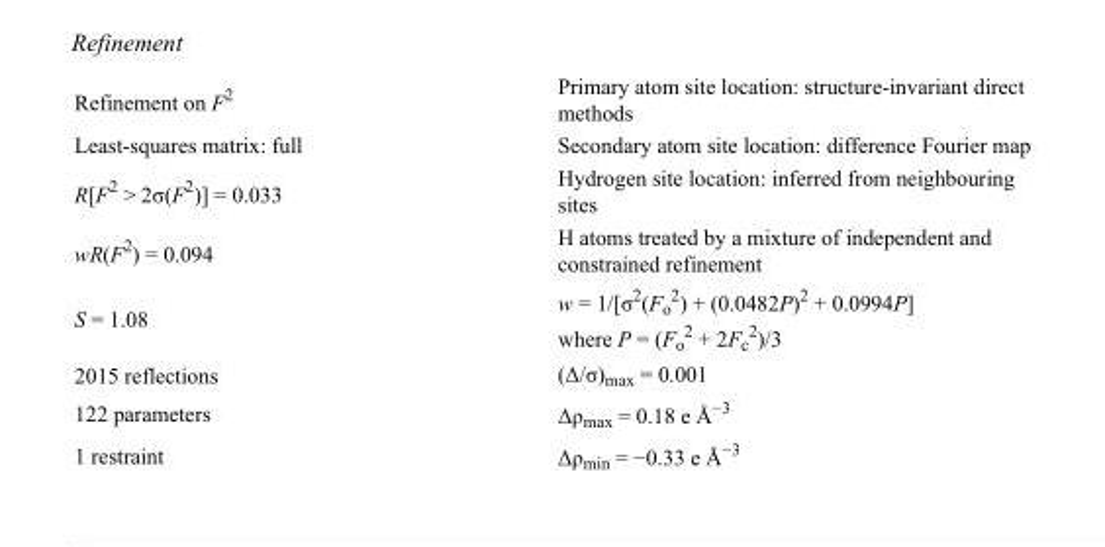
<table><tbody><tr><td>Refinement on F<sup>2</sup></td><td>Primary atom site location: structure-invariant direct methods</td></tr><tr><td>Least-squares matrix: full</td><td>Secondary atom site location: difference Fourier map</td></tr><tr><td>R[F<sup>2</sup> &gt; 2σ(F<sup>2</sup>)] = 0.033</td><td>Hydrogen site location: inferred from neighbouring sites</td></tr><tr><td>wR(F<sup>2</sup>) = 0.094</td><td>H atoms treated by a mixture of independent and constrained refinement</td></tr><tr><td>S = 1.08</td><td>w = 1/[σ<sup>2</sup>(F<sub>o</sub> <sup>2</sup>) + (0.0482P)<sup>2</sup> + 0.0994P] where P = (F<sub>o</sub> <sup>2</sup> + 2F<sub>c</sub> <sup>2</sup>)/3</td></tr><tr><td>2015 reflections</td><td>(Δ/σ)<sub>max</sub> = 0.001</td></tr><tr><td>122 parameters</td><td>Δρ<sub>max</sub> = 0.18 e Å<sup>−3</sup></td></tr><tr><td>1 restraint</td><td>Δρ<sub>min</sub> = −0.33 e Å<sup>−3</sup></td></tr></tbody></table>